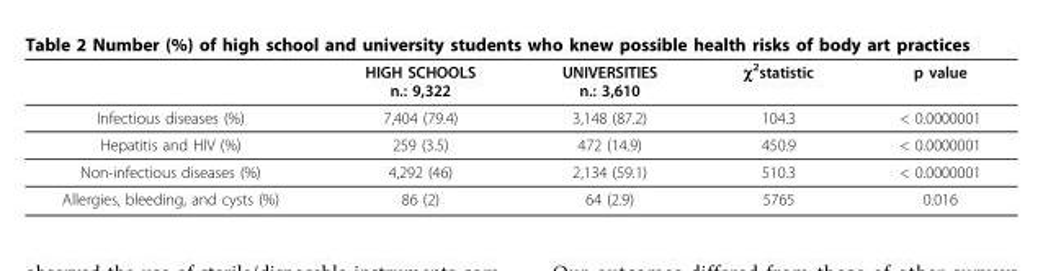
<table><thead><tr><td></td><td>HIGH SCHOOLS n.: 9,322</td><td>UNIVERSITIES n.: 3,610</td><td>χ<sup>2</sup>statistic</td><td>p value</td></tr></thead><tbody><tr><td>Infectious diseases (%)</td><td>7,404 (79.4)</td><td>3,148 (87.2)</td><td>104.3</td><td>&lt; 0.0000001</td></tr><tr><td>Hepatitis and HIV (%)</td><td>259 (3.5)</td><td>472 (14.9)</td><td>450.9</td><td>&lt; 0.0000001</td></tr><tr><td>Non-infectious diseases (%)</td><td>4,292 (46)</td><td>2,134 (59.1)</td><td>510.3</td><td>&lt; 0.0000001</td></tr><tr><td>Allergies, bleeding, and cysts (%)</td><td>86 (2)</td><td>64 (2.9)</td><td>5765</td><td>0.016</td></tr></tbody></table>